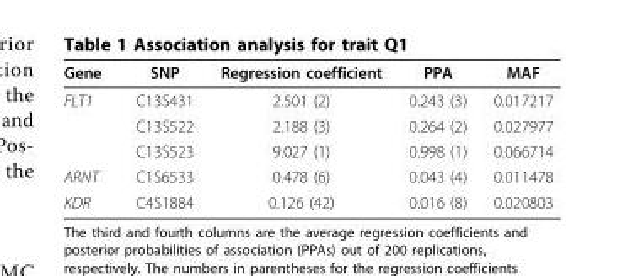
<table><thead><tr><td>Gene</td><td>SNP</td><td>Regression coefficient</td><td>PPA</td><td>MAF</td></tr></thead><tbody><tr><td rowspan="3">FLT1</td><td>C13S431</td><td>2.501 (2)</td><td>0.243 (3)</td><td>0.017217</td></tr><tr><td>C13S522</td><td>2.188 (3)</td><td>0.264 (2)</td><td>0.027977</td></tr><tr><td>C13S523</td><td>9.027 (1)</td><td>0.998 (1)</td><td>0.066714</td></tr><tr><td>ARNT</td><td>C1S6533</td><td>0.478 (6)</td><td>0.043 (4)</td><td>0.011478</td></tr><tr><td>KDR</td><td>C4S1884</td><td>0.126 (42)</td><td>0.016 (8)</td><td>0.020803</td></tr></tbody></table>